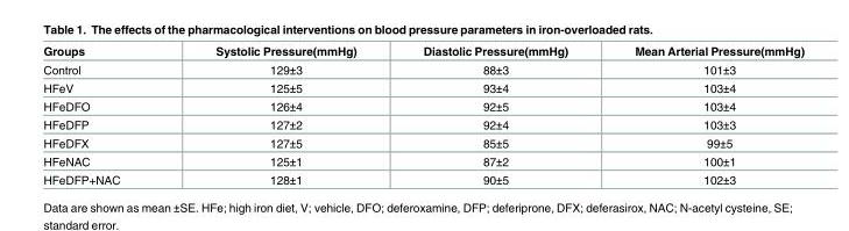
<table><thead><tr><td>Groups</td><td>Systolic Pressure(mmHg)</td><td>Diastolic Pressure(mmHg)</td><td>Mean Arterial Pressure(mmHg)</td></tr></thead><tbody><tr><td>Control</td><td>129±3</td><td>88±3</td><td>101±3</td></tr><tr><td>HFeV</td><td>125±5</td><td>93±4</td><td>103±4</td></tr><tr><td>HFeDFO</td><td>126±4</td><td>92±5</td><td>103±4</td></tr><tr><td>HFeDFP</td><td>127±2</td><td>92±4</td><td>103±3</td></tr><tr><td>HFeDFX</td><td>127±5</td><td>85±5</td><td>99±5</td></tr><tr><td>HFeNAC</td><td>125±1</td><td>87±2</td><td>100±1</td></tr><tr><td>HFeDFP+NAC</td><td>128±1</td><td>90±5</td><td>102±3</td></tr></tbody></table>